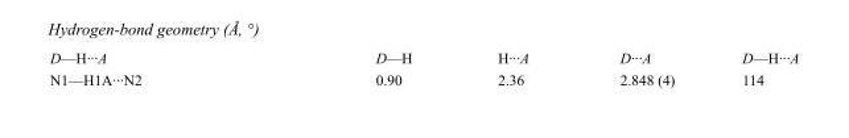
<table><tbody><tr><td>D—H···A</td><td>D—H</td><td>H···A</td><td>D···A</td><td>D—H···A</td></tr><tr><td>N1—H1A···N2</td><td>0.90</td><td>2.36</td><td>2.848 (4)</td><td>114</td></tr></tbody></table>